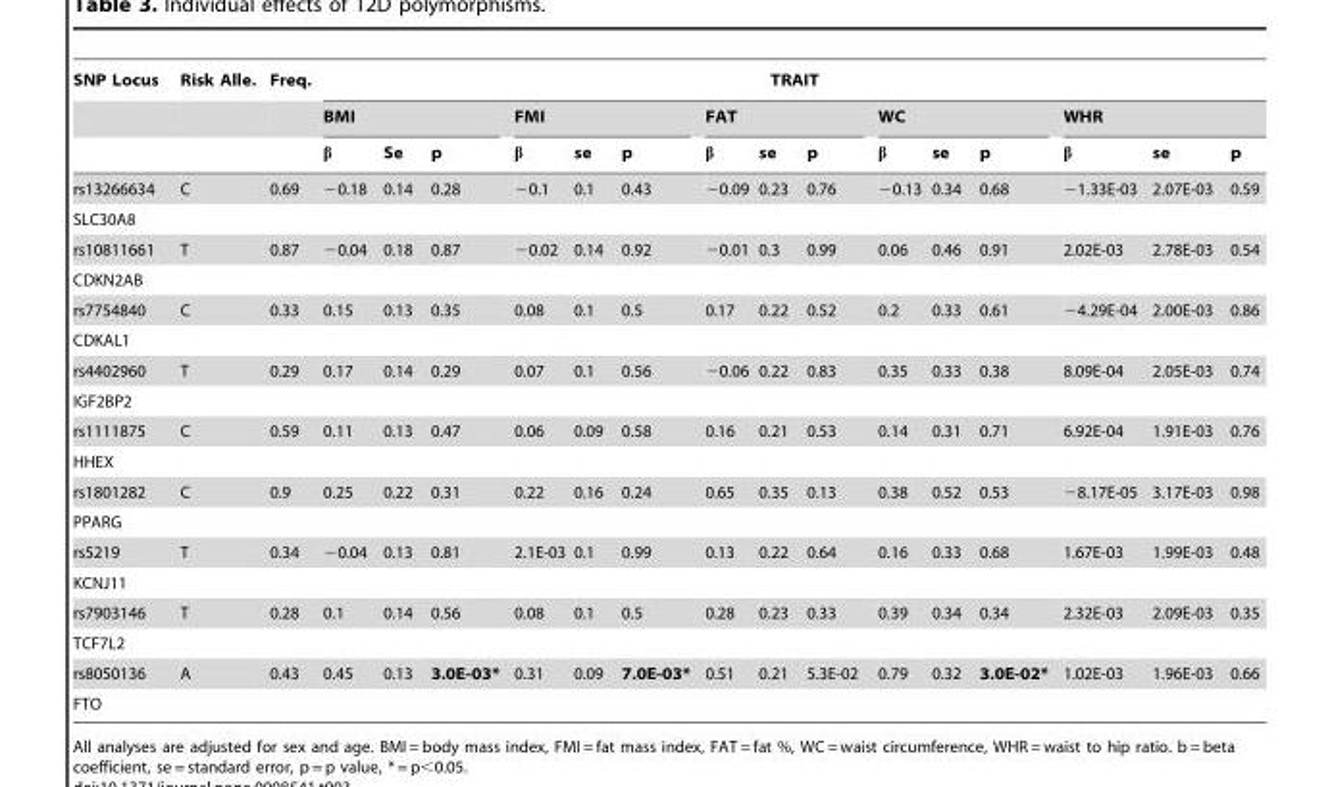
<table><thead><tr><td rowspan="3">SNP Locus</td><td rowspan="3">Risk Alle.</td><td rowspan="3">Freq.</td><td colspan="15">TRAIT</td></tr><tr><td colspan="3">BMI</td><td colspan="3">FMI</td><td colspan="3">FAT</td><td colspan="3">WC</td><td colspan="3">WHR</td></tr><tr><td>β</td><td>Se</td><td>p</td><td>β</td><td>se</td><td>p</td><td>β</td><td>se</td><td>p</td><td>β</td><td>se</td><td>p</td><td>β</td><td>se</td><td>p</td></tr></thead><tbody><tr><td>rs13266634</td><td>C</td><td>0.69</td><td>−0.18</td><td>0.14</td><td>0.28</td><td>−0.1</td><td>0.1</td><td>0.43</td><td>−0.09</td><td>0.23</td><td>0.76</td><td>−0.13</td><td>0.34</td><td>0.68</td><td>−1.33E-03</td><td>2.07E-03</td><td>0.59</td></tr><tr><td colspan="18">SLC30A8</td></tr><tr><td>rs10811661</td><td>T</td><td>0.87</td><td>−0.04</td><td>0.18</td><td>0.87</td><td>−0.02</td><td>0.14</td><td>0.92</td><td>−0.01</td><td>0.3</td><td>0.99</td><td>0.06</td><td>0.46</td><td>0.91</td><td>2.02E-03</td><td>2.78E-03</td><td>0.54</td></tr><tr><td colspan="18">CDKN2AB</td></tr><tr><td>rs7754840</td><td>C</td><td>0.33</td><td>0.15</td><td>0.13</td><td>0.35</td><td>0.08</td><td>0.1</td><td>0.5</td><td>0.17</td><td>0.22</td><td>0.52</td><td>0.2</td><td>0.33</td><td>0.61</td><td>−4.29E-04</td><td>2.00E-03</td><td>0.86</td></tr><tr><td colspan="18">CDKAL1</td></tr><tr><td>rs4402960</td><td>T</td><td>0.29</td><td>0.17</td><td>0.14</td><td>0.29</td><td>0.07</td><td>0.1</td><td>0.56</td><td>−0.06</td><td>0.22</td><td>0.83</td><td>0.35</td><td>0.33</td><td>0.38</td><td>8.09E-04</td><td>2.05E-03</td><td>0.74</td></tr><tr><td colspan="18">IGF2BP2</td></tr><tr><td>rs1111875</td><td>C</td><td>0.59</td><td>0.11</td><td>0.13</td><td>0.47</td><td>0.06</td><td>0.09</td><td>0.58</td><td>0.16</td><td>0.21</td><td>0.53</td><td>0.14</td><td>0.31</td><td>0.71</td><td>6.92E-04</td><td>1.91E-03</td><td>0.76</td></tr><tr><td colspan="18">HHEX</td></tr><tr><td>rs1801282</td><td>C</td><td>0.9</td><td>0.25</td><td>0.22</td><td>0.31</td><td>0.22</td><td>0.16</td><td>0.24</td><td>0.65</td><td>0.35</td><td>0.13</td><td>0.38</td><td>0.52</td><td>0.53</td><td>−8.17E-05</td><td>3.17E-03</td><td>0.98</td></tr><tr><td colspan="18">PPARG</td></tr><tr><td>rs5219</td><td>T</td><td>0.34</td><td>−0.04</td><td>0.13</td><td>0.81</td><td>2.1E-03</td><td>0.1</td><td>0.99</td><td>0.13</td><td>0.22</td><td>0.64</td><td>0.16</td><td>0.33</td><td>0.68</td><td>1.67E-03</td><td>1.99E-03</td><td>0.48</td></tr><tr><td colspan="18">KCNJ11</td></tr><tr><td>rs7903146</td><td>T</td><td>0.28</td><td>0.1</td><td>0.14</td><td>0.56</td><td>0.08</td><td>0.1</td><td>0.5</td><td>0.28</td><td>0.23</td><td>0.33</td><td>0.39</td><td>0.34</td><td>0.34</td><td>2.32E-03</td><td>2.09E-03</td><td>0.35</td></tr><tr><td colspan="18">TCF7L2</td></tr><tr><td>rs8050136</td><td>A</td><td>0.43</td><td>0.45</td><td>0.13</td><td>3.0E-03*</td><td>0.31</td><td>0.09</td><td>7.0E-03*</td><td>0.51</td><td>0.21</td><td>5.3E-02</td><td>0.79</td><td>0.32</td><td>3.0E-02*</td><td>1.02E-03</td><td>1.96E-03</td><td>0.66</td></tr><tr><td>FTO</td><td></td><td></td><td></td><td></td><td></td><td></td><td></td><td></td><td></td><td></td><td></td><td></td><td></td><td></td><td></td><td></td><td></td></tr></tbody></table>